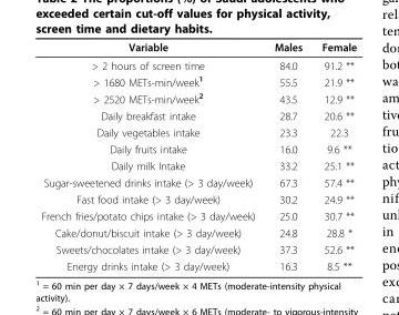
<table><thead><tr><td>Variable</td><td>Males</td><td>Female</td></tr></thead><tbody><tr><td>&gt; 2 hours of screen time</td><td>84.0</td><td>91.2 **</td></tr><tr><td>&gt; 1680 METs-min/week<sup>1</sup></td><td>55.5</td><td>21.9 **</td></tr><tr><td>&gt; 2520 METs-min/week<sup>2</sup></td><td>43.5</td><td>12.9 **</td></tr><tr><td>Daily breakfast intake</td><td>28.7</td><td>20.6 **</td></tr><tr><td>Daily vegetables intake</td><td>23.3</td><td>22.3</td></tr><tr><td>Daily fruits intake</td><td>16.0</td><td>9.6 **</td></tr><tr><td>Daily milk Intake</td><td>33.2</td><td>25.1 **</td></tr><tr><td>Sugar-sweetened drinks intake (&gt; 3 day/week)</td><td>67.3</td><td>57.4 **</td></tr><tr><td>Fast food intake (&gt; 3 day/week)</td><td>30.2</td><td>24.9 **</td></tr><tr><td>French fries/potato chips intake (&gt; 3 day/week)</td><td>25.0</td><td>30.7 **</td></tr><tr><td>Cake/donut/biscuit intake (&gt; 3 day/week)</td><td>24.8</td><td>28.8 *</td></tr><tr><td>Sweets/chocolates intake (&gt; 3 day/week)</td><td>37.3</td><td>52.6 **</td></tr><tr><td>Energy drinks intake (&gt; 3 day/week)</td><td>16.3</td><td>8.5 **</td></tr></tbody></table>